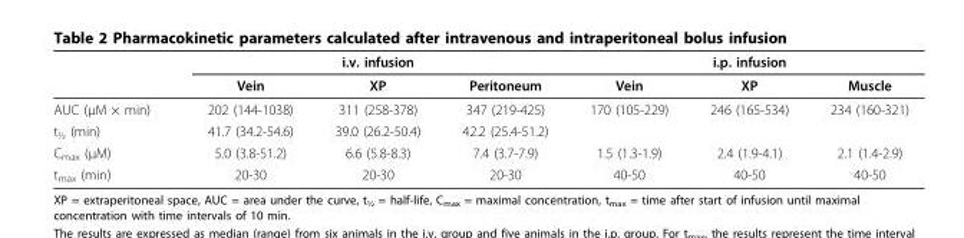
<table><thead><tr><td rowspan="2"></td><td colspan="3">i.v. infusion</td><td colspan="3">i.p. infusion</td></tr><tr><td>Vein</td><td>XP</td><td>Peritoneum</td><td>Vein</td><td>XP</td><td>Muscle</td></tr></thead><tbody><tr><td>AUC (μM × min)</td><td>202 (144-1038)</td><td>311 (258-378)</td><td>347 (219-425)</td><td>170 (105-229)</td><td>246 (165-534)</td><td>234 (160-321)</td></tr><tr><td>t<sub>½</sub> (min)</td><td>41.7 (34.2-54.6)</td><td>39.0 (26.2-50.4)</td><td>42.2 (25.4-51.2)</td><td></td><td></td><td></td></tr><tr><td>C<sub>max</sub> (μM)</td><td>5.0 (3.8-51.2)</td><td>6.6 (5.8-8.3)</td><td>7.4 (3.7-7.9)</td><td>1.5 (1.3-1.9)</td><td>2.4 (1.9-4.1)</td><td>2.1 (1.4-2.9)</td></tr><tr><td>t<sub>max</sub> (min)</td><td>20-30</td><td>20-30</td><td>20-30</td><td>40-50</td><td>40-50</td><td>40-50</td></tr></tbody></table>